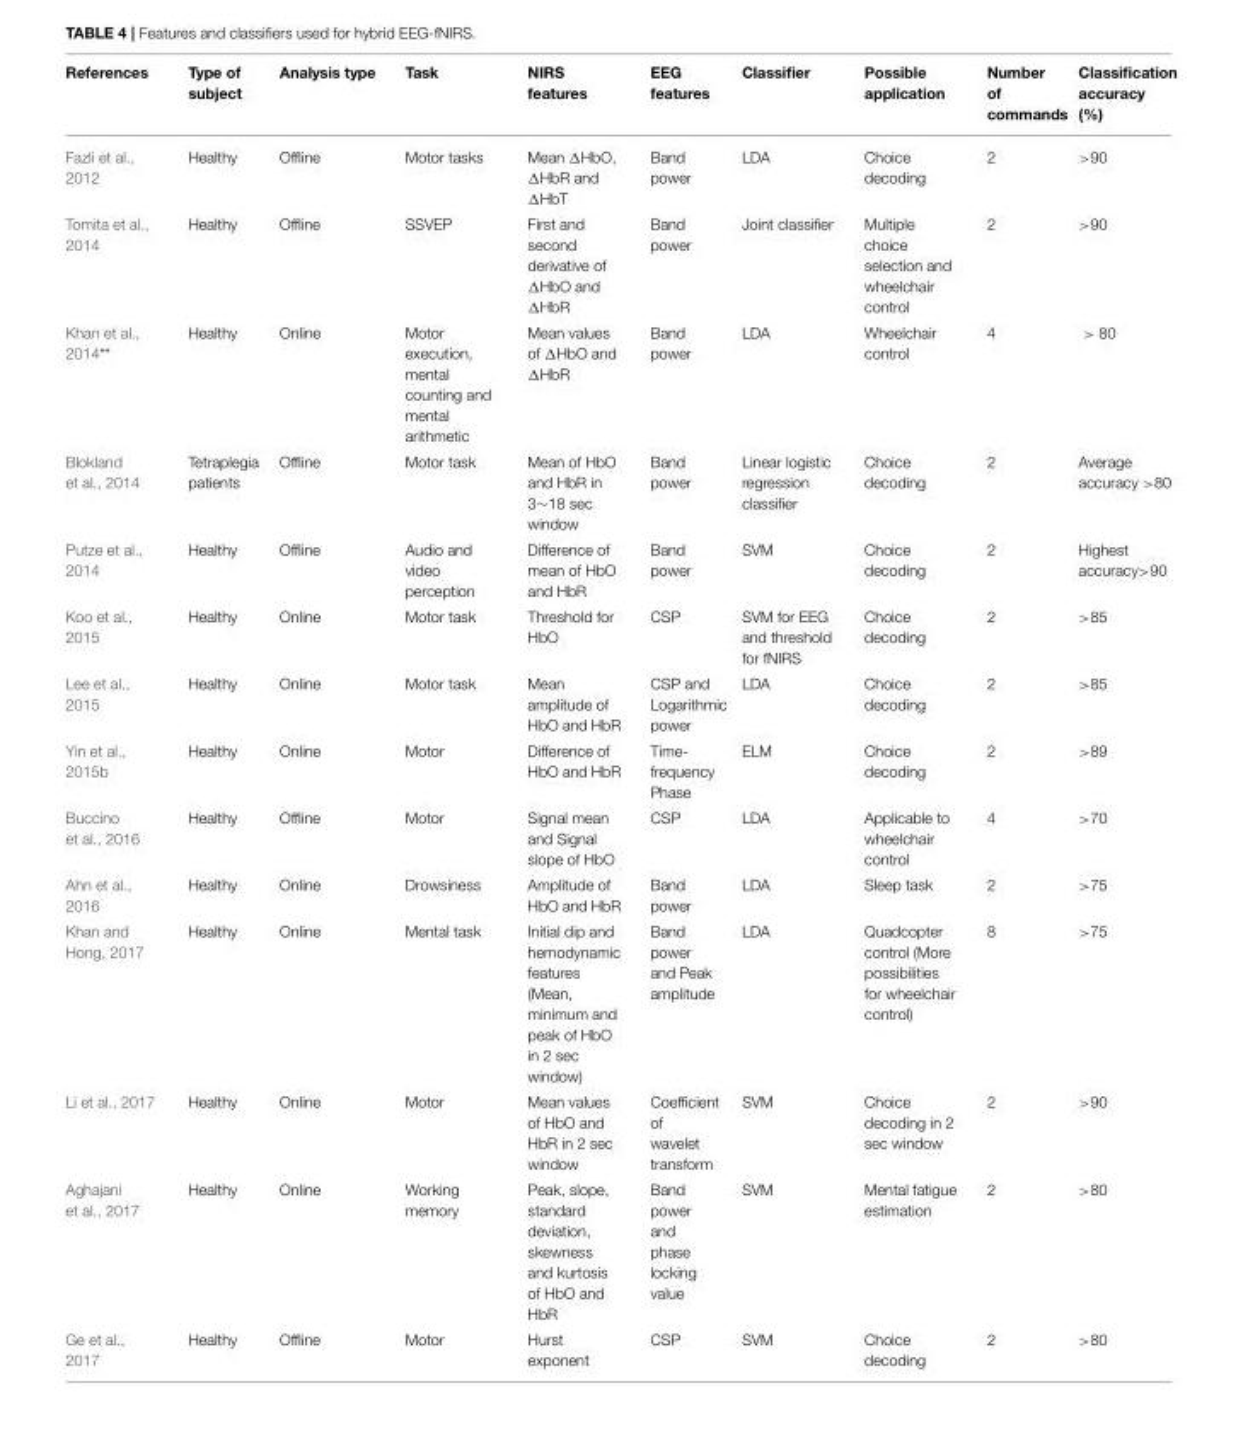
<table><thead><tr><td>References</td><td>Type of subject</td><td>Analysis type</td><td>Task</td><td>NIRS features</td><td>EEG features</td><td>Classifier</td><td>Possible application</td><td>Number of commands</td><td>Classification accuracy (%)</td></tr></thead><tbody><tr><td>Fazli et al., 2012</td><td>Healthy</td><td>Offline</td><td>Motor tasks</td><td>Mean ΔHbO, ΔHbR and ΔHbT</td><td>Band power</td><td>LDA</td><td>Choice decoding</td><td>2</td><td>&gt;90</td></tr><tr><td>Tomita et al., 2014</td><td>Healthy</td><td>Offline</td><td>SSVEP</td><td>First and second derivative of ΔHbO and ΔHbR</td><td>Band power</td><td>Joint classifier</td><td>Multiple choice selection and wheelchair control</td><td>2</td><td>&gt;90</td></tr><tr><td>Khan et al., 2014**</td><td>Healthy</td><td>Online</td><td>Motor execution, mental counting and mental arithmetic</td><td>Mean values of ΔHbO and ΔHbR</td><td>Band power</td><td>LDA</td><td>Wheelchair control</td><td>4</td><td>&gt; 80</td></tr><tr><td>Blokland et al., 2014</td><td>Tetraplegia patients</td><td>Offline</td><td>Motor task</td><td>Mean of HbO and HbR in 3∼18 sec window</td><td>Band power</td><td>Linear logistic regression classifier</td><td>Choice decoding</td><td>2</td><td>Average accuracy &gt;80</td></tr><tr><td>Putze et al., 2014</td><td>Healthy</td><td>Offline</td><td>Audio and video perception</td><td>Difference of mean of HbO and HbR</td><td>Band power</td><td>SVM</td><td>Choice decoding</td><td>2</td><td>Highest accuracy&gt;90</td></tr><tr><td>Koo et al., 2015</td><td>Healthy</td><td>Online</td><td>Motor task</td><td>Threshold for HbO</td><td>CSP</td><td>SVM for EEG and threshold for fNIRS</td><td>Choice decoding</td><td>2</td><td>&gt;85</td></tr><tr><td>Lee et al., 2015</td><td>Healthy</td><td>Online</td><td>Motor task</td><td>Mean amplitude of HbO and HbR</td><td>CSP and Logarithmic power</td><td>LDA</td><td>Choice decoding</td><td>2</td><td>&gt;85</td></tr><tr><td>Yin et al., 2015b</td><td>Healthy</td><td>Online</td><td>Motor</td><td>Difference of HbO and HbR</td><td>Time- frequency Phase</td><td>ELM</td><td>Choice decoding</td><td>2</td><td>&gt;89</td></tr><tr><td>Buccino et al., 2016</td><td>Healthy</td><td>Offline</td><td>Motor</td><td>Signal mean and Signal slope of HbO</td><td>CSP</td><td>LDA</td><td>Applicable to wheelchair control</td><td>4</td><td>&gt;70</td></tr><tr><td>Ahn et al., 2016</td><td>Healthy</td><td>Online</td><td>Drowsiness</td><td>Amplitude of HbO and HbR</td><td>Band power</td><td>LDA</td><td>Sleep task</td><td>2</td><td>&gt;75</td></tr><tr><td>Khan and Hong, 2017</td><td>Healthy</td><td>Online</td><td>Mental task</td><td>Initial dip and hemodynamic features (Mean, minimum and peak of HbO in 2 sec window)</td><td>Band power and Peak amplitude</td><td>LDA</td><td>Quadcopter control (More possibilities for wheelchair control)</td><td>8</td><td>&gt;75</td></tr><tr><td>Li et al., 2017</td><td>Healthy</td><td>Online</td><td>Motor</td><td>Mean values of HbO and HbR in 2 sec window</td><td>Coefficient of wavelet transform</td><td>SVM</td><td>Choice decoding in 2 sec window</td><td>2</td><td>&gt;90</td></tr><tr><td>Aghajani et al., 2017</td><td>Healthy</td><td>Online</td><td>Working memory</td><td>Peak, slope, standard deviation, skewness and kurtosis of HbO and HbR</td><td>Band power and phase locking value</td><td>SVM</td><td>Mental fatigue estimation</td><td>2</td><td>&gt;80</td></tr><tr><td>Ge et al., 2017</td><td>Healthy</td><td>Offline</td><td>Motor</td><td>Hurst exponent</td><td>CSP</td><td>SVM</td><td>Choice decoding</td><td>2</td><td>&gt;80</td></tr></tbody></table>